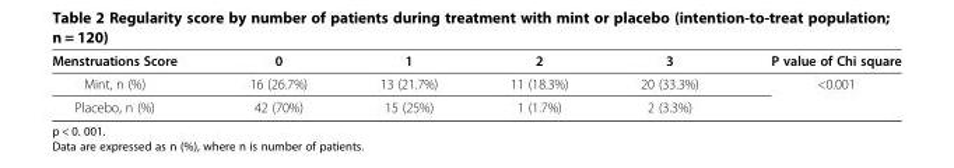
<table><thead><tr><td>Menstruations Score</td><td>0</td><td>1</td><td>2</td><td>3</td><td>P value of Chi square</td></tr></thead><tbody><tr><td>Mint, n (%)</td><td>16 (26.7%)</td><td>13 (21.7%)</td><td>11 (18.3%)</td><td>20 (33.3%)</td><td>&lt;0.001</td></tr><tr><td>Placebo, n (%)</td><td>42 (70%)</td><td>15 (25%)</td><td>1 (1.7%)</td><td>2 (3.3%)</td><td></td></tr></tbody></table>